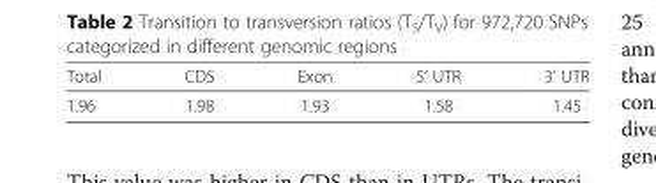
<table><thead><tr><td>Total</td><td>CDS</td><td>Exon</td><td>5’ UTR</td><td>3’ UTR</td></tr></thead><tbody><tr><td>1.96</td><td>1.98</td><td>1.93</td><td>1.58</td><td>1.45</td></tr></tbody></table>